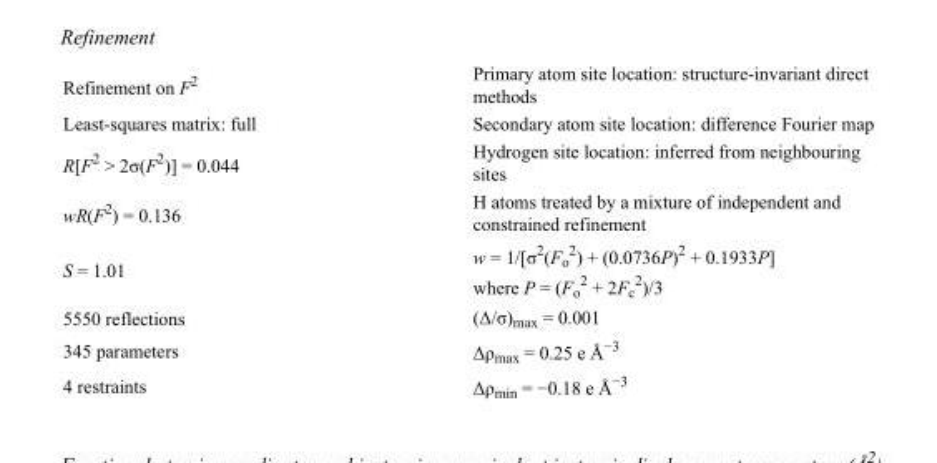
<table><tbody><tr><td>Refinement on F<sup>2</sup></td><td>Primary atom site location: structure-invariant direct methods</td></tr><tr><td>Least-squares matrix: full</td><td>Secondary atom site location: difference Fourier map</td></tr><tr><td>R[F<sup>2</sup> &gt; 2σ(F<sup>2</sup>)] = 0.044</td><td>Hydrogen site location: inferred from neighbouring sites</td></tr><tr><td>wR(F<sup>2</sup>) = 0.136</td><td>H atoms treated by a mixture of independent and constrained refinement</td></tr><tr><td>S = 1.01</td><td>w = 1/[σ<sup>2</sup>(F<sub>o</sub> <sup>2</sup>) + (0.0736P)<sup>2</sup> + 0.1933P] where P = (F<sub>o</sub> <sup>2</sup> + 2F<sub>c</sub> <sup>2</sup>)/3</td></tr><tr><td>5550 reflections</td><td>(Δ/σ)<sub>max</sub> = 0.001</td></tr><tr><td>345 parameters</td><td>Δρ<sub>max</sub> = 0.25 e Å<sup>−3</sup></td></tr><tr><td>4 restraints</td><td>Δρ<sub>min</sub> = −0.18 e Å<sup>−3</sup></td></tr></tbody></table>